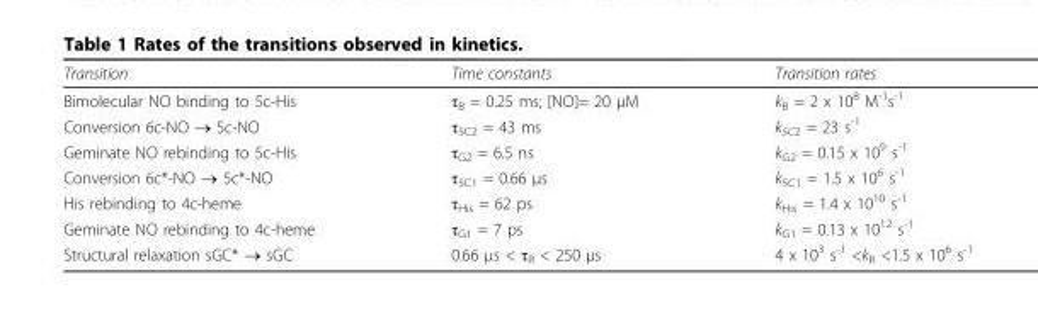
<table><thead><tr><td>Transition</td><td>Time constants</td><td>Transition rates</td></tr></thead><tbody><tr><td>Bimolecular NO binding to 5c-His</td><td>τ<sub>B</sub> = 0.25 ms; [NO]= 20 µM</td><td>k<sub>B</sub> = 2 x 10<sup>8</sup> M<sup>-1</sup>s<sup>-1</sup></td></tr><tr><td>Conversion 6c-NO → 5c-NO</td><td>τ<sub>5C2</sub> = 43 ms</td><td>k<sub>5C2</sub> = 23 s<sup>-1</sup></td></tr><tr><td>Geminate NO rebinding to 5c-His</td><td>τ<sub>G2</sub> = 6.5 ns</td><td>k<sub>G2</sub> = 0.15 x 10<sup>9</sup> s<sup>-1</sup></td></tr><tr><td>Conversion 6c*-NO → 5c*-NO</td><td>τ<sub>5C1</sub> = 0.66 µs</td><td>k<sub>5C1</sub> = 1.5 x 10<sup>6</sup> s<sup>-1</sup></td></tr><tr><td>His rebinding to 4c-heme</td><td>τ<sub>His</sub> = 62 ps</td><td>k<sub>His</sub> = 1.4 x 10<sup>10</sup> s<sup>-1</sup></td></tr><tr><td>Geminate NO rebinding to 4c-heme</td><td>τ<sub>G1</sub> = 7 ps</td><td>k<sub>G1</sub> = 0.13 x 10<sup>12</sup> s<sup>-1</sup></td></tr><tr><td>Structural relaxation sGC* → sGC</td><td>0.66 µs &lt; τ<sub>R</sub> &lt; 250 µs</td><td>4 x 10<sup>3</sup> s<sup>-1</sup> &lt;k<sub>R</sub> &lt;1.5 x 10<sup>6</sup> s<sup>-1</sup></td></tr></tbody></table>